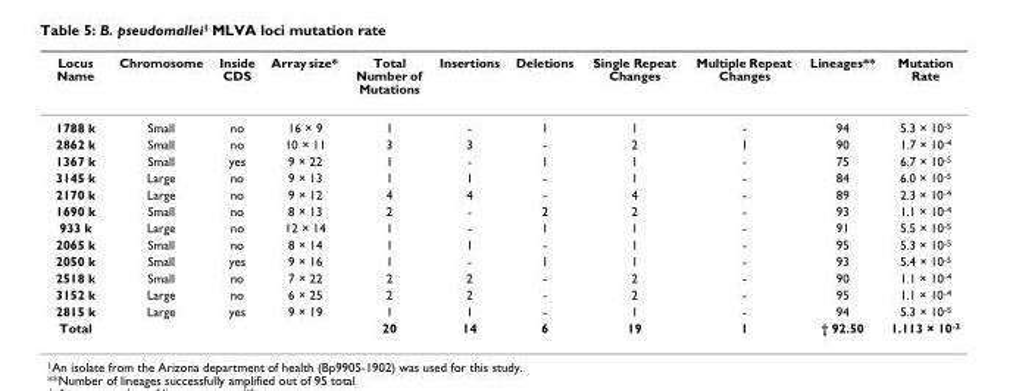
<table><thead><tr><td>Locus Name</td><td>Chromosome</td><td>Inside CDS</td><td>Array size*</td><td>Total Number of Mutations</td><td>Insertions</td><td>Deletions</td><td>Single Repeat Changes</td><td>Multiple Repeat Changes</td><td>Lineages**</td><td>Mutation Rate</td></tr></thead><tbody><tr><td>1788 k</td><td>Small</td><td>no</td><td>16 × 9</td><td>1</td><td>-</td><td>1</td><td>1</td><td>-</td><td>94</td><td>5.3 × 10-5</td></tr><tr><td>2862 k</td><td>Small</td><td>no</td><td>10 × 11</td><td>3</td><td>3</td><td>-</td><td>2</td><td>1</td><td>90</td><td>1.7 × 10-4</td></tr><tr><td>1367 k</td><td>Small</td><td>yes</td><td>9 × 22</td><td>1</td><td>-</td><td>1</td><td>1</td><td>-</td><td>75</td><td>6.7 × 10-5</td></tr><tr><td>3145 k</td><td>Large</td><td>no</td><td>9 × 13</td><td>1</td><td>1</td><td>-</td><td>1</td><td>-</td><td>84</td><td>6.0 × 10-5</td></tr><tr><td>2170 k</td><td>Large</td><td>no</td><td>9 × 12</td><td>4</td><td>4</td><td>-</td><td>4</td><td>-</td><td>89</td><td>2.3 × 10-4</td></tr><tr><td>1690 k</td><td>Small</td><td>no</td><td>8 × 13</td><td>2</td><td>-</td><td>2</td><td>2</td><td>-</td><td>93</td><td>1.1 × 10-4</td></tr><tr><td>933 k</td><td>Large</td><td>no</td><td>12 × 14</td><td>1</td><td>-</td><td>1</td><td>1</td><td>-</td><td>91</td><td>5.5 × 10-5</td></tr><tr><td>2065 k</td><td>Small</td><td>no</td><td>8 × 14</td><td>1</td><td>1</td><td>-</td><td>1</td><td>-</td><td>95</td><td>5.3 × 10-5</td></tr><tr><td>2050 k</td><td>Small</td><td>yes</td><td>9 × 16</td><td>1</td><td>-</td><td>1</td><td>1</td><td>-</td><td>93</td><td>5.4 × 10-5</td></tr><tr><td>2518 k</td><td>Small</td><td>no</td><td>7 × 22</td><td>2</td><td>2</td><td>-</td><td>2</td><td>-</td><td>90</td><td>1.1 × 10-4</td></tr><tr><td>3152 k</td><td>Large</td><td>no</td><td>6 × 25</td><td>2</td><td>2</td><td>-</td><td>2</td><td>-</td><td>95</td><td>1.1 × 10-4</td></tr><tr><td>2815 k</td><td>Large</td><td>yes</td><td>9 × 19</td><td>1</td><td>1</td><td>-</td><td>1</td><td>-</td><td>94</td><td>5.3 × 10-5</td></tr><tr><td>Total</td><td></td><td></td><td></td><td>20</td><td>14</td><td>6</td><td>19</td><td>1</td><td>† 92.50</td><td>1.113 × 10-3</td></tr></tbody></table>